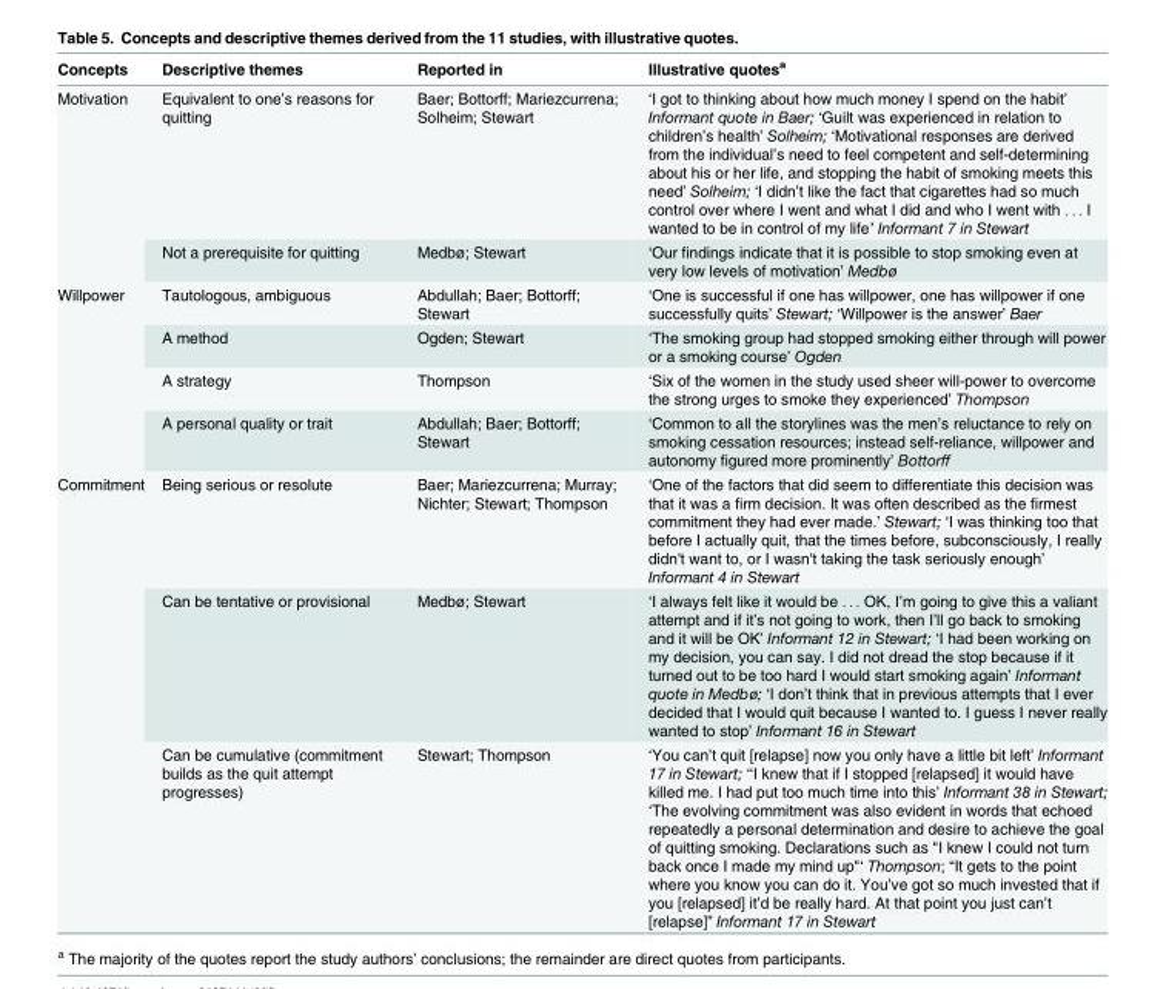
<table><thead><tr><td>Concepts</td><td>Descriptive themes</td><td>Reported in</td><td>Illustrative quotes<sup>a</sup></td></tr></thead><tbody><tr><td rowspan="2">Motivation</td><td>Equivalent to one’s reasons for quitting</td><td>Baer; Bottorff; Mariezcurrena; Solheim; Stewart</td><td>‘I got to thinking about how much money I spend on the habit’ Informant quote in Baer; ‘Guilt was experienced in relation to children’s health’ Solheim; ‘Motivational responses are derived from the individual’s need to feel competent and self-determining about his or her life, and stopping the habit of smoking meets this need’ Solheim; ‘I didn’t like the fact that cigarettes had so much control over where I went and what I did and who I went with . . . I wanted to be in control of my life’ Informant 7 in Stewart</td></tr><tr><td>Not a prerequisite for quitting</td><td>Medbø; Stewart</td><td>‘Our findings indicate that it is possible to stop smoking even at very low levels of motivation’ Medbø</td></tr><tr><td rowspan="4">Willpower</td><td>Tautologous, ambiguous</td><td>Abdullah; Baer; Bottorff; Stewart</td><td>‘One is successful if one has willpower, one has willpower if one successfully quits’ Stewart; ‘Willpower is the answer’ Baer</td></tr><tr><td>A method</td><td>Ogden; Stewart</td><td>‘The smoking group had stopped smoking either through will power or a smoking course’ Ogden</td></tr><tr><td>A strategy</td><td>Thompson</td><td>‘Six of the women in the study used sheer will-power to overcome the strong urges to smoke they experienced’ Thompson</td></tr><tr><td>A personal quality or trait</td><td>Abdullah; Baer; Bottorff; Stewart</td><td>‘Common to all the storylines was the men’s reluctance to rely on smoking cessation resources; instead self-reliance, willpower and autonomy figured more prominently’ Bottorff</td></tr><tr><td rowspan="3">Commitment</td><td>Being serious or resolute</td><td>Baer; Mariezcurrena; Murray; Nichter; Stewart; Thompson</td><td>‘One of the factors that did seem to differentiate this decision was that it was a firm decision. It was often described as the firmest commitment they had ever made.’ Stewart; ‘I was thinking too that before I actually quit, that the times before, subconsciously, I really didn&#x27;t want to, or I wasn&#x27;t taking the task seriously enough’ Informant 4 in Stewart</td></tr><tr><td>Can be tentative or provisional</td><td>Medbø; Stewart</td><td>‘I always felt like it would be . . . OK, I’m going to give this a valiant attempt and if it’s not going to work, then I’ll go back to smoking and it will be OK’ Informant 12 in Stewart; ‘I had been working on my decision, you can say. I did not dread the stop because if it turned out to be too hard I would start smoking again’ Informant quote in Medbø; ‘I don’t think that in previous attempts that I ever decided that I would quit because I wanted to. I guess I never really wanted to stop’ Informant 16 in Stewart</td></tr><tr><td>Can be cumulative (commitment builds as the quit attempt progresses)</td><td>Stewart; Thompson</td><td>‘You can’t quit [relapse] now you only have a little bit left’ Informant 17 in Stewart; ‘‘I knew that if I stopped [relapsed] it would have killed me. I had put too much time into this’ Informant 38 in Stewart; ‘The evolving commitment was also evident in words that echoed repeatedly a personal determination and desire to achieve the goal of quitting smoking. Declarations such as &quot;I knew I could not turn back once I made my mind up&quot;‘ Thompson; “It gets to the point where you know you can do it. You’ve got so much invested that if you [relapsed] it’d be really hard. At that point you just can’t [relapse]” Informant 17 in Stewart</td></tr></tbody></table>